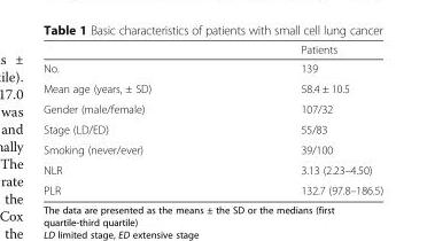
<table><thead><tr><td></td><td>Patients</td></tr></thead><tbody><tr><td>No.</td><td>139</td></tr><tr><td>Mean age (years, ± SD)</td><td>58.4 ± 10.5</td></tr><tr><td>Gender (male/female)</td><td>107/32</td></tr><tr><td>Stage (LD/ED)</td><td>55/83</td></tr><tr><td>Smoking (never/ever)</td><td>39/100</td></tr><tr><td>NLR</td><td>3.13 (2.23–4.50)</td></tr><tr><td>PLR</td><td>132.7 (97.8–186.5)</td></tr></tbody></table>